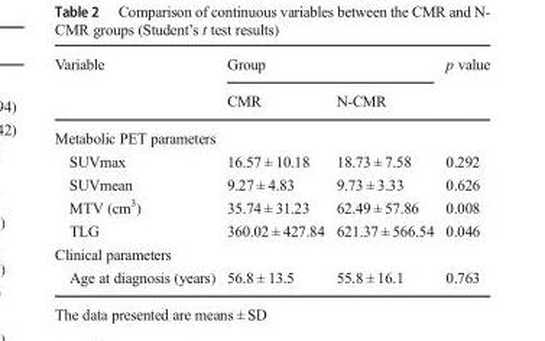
<table><thead><tr><td rowspan="2">Variable</td><td colspan="2">Group</td><td rowspan="2">p value</td></tr><tr><td>CMR</td><td>N-CMR</td></tr></thead><tbody><tr><td colspan="4">Metabolic PET parameters</td></tr><tr><td>SUVmax</td><td>16.57 ± 10.18</td><td>18.73 ± 7.58</td><td>0.292</td></tr><tr><td>SUVmean</td><td>9.27 ± 4.83</td><td>9.73 ± 3.33</td><td>0.626</td></tr><tr><td>MTV (cm<sup>3</sup>)</td><td>35.74 ± 31.23</td><td>62.49 ± 57.86</td><td>0.008</td></tr><tr><td>TLG</td><td>360.02 ± 427.84</td><td>621.37 ± 566.54</td><td>0.046</td></tr><tr><td colspan="4">Clinical parameters</td></tr><tr><td>Age at diagnosis (years)</td><td>56.8 ± 13.5</td><td>55.8 ± 16.1</td><td>0.763</td></tr></tbody></table>